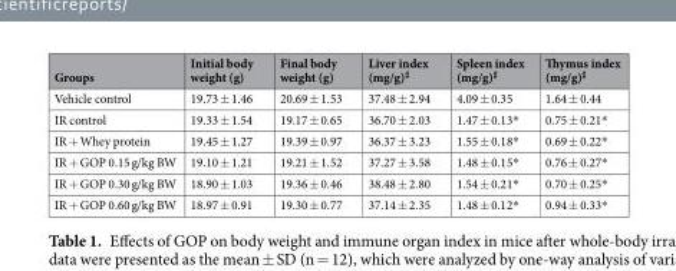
<table><thead><tr><td>Groups</td><td>Initial body weight (g)</td><td>Final body weight (g)</td><td>Liver index (mg/g)<sup>♯</sup></td><td>Spleen index (mg/g)<sup>♯</sup></td><td>Thymus index (mg/g)<sup>♯</sup></td></tr></thead><tbody><tr><td>Vehicle control</td><td>19.73 ± 1.46</td><td>20.69 ± 1.53</td><td>37.48 ± 2.94</td><td>4.09 ± 0.35</td><td>1.64 ± 0.44</td></tr><tr><td>IR control</td><td>19.33 ± 1.54</td><td>19.17 ± 0.65</td><td>36.70 ± 2.03</td><td>1.47 ± 0.13*</td><td>0.75 ± 0.21*</td></tr><tr><td>IR + Whey protein</td><td>19.45 ± 1.27</td><td>19.39 ± 0.97</td><td>36.37 ± 3.23</td><td>1.55 ± 0.18*</td><td>0.69 ± 0.22*</td></tr><tr><td>IR + GOP 0.15 g/kg BW</td><td>19.10 ± 1.21</td><td>19.21 ± 1.52</td><td>37.27 ± 3.58</td><td>1.48 ± 0.15*</td><td>0.76 ± 0.27*</td></tr><tr><td>IR + GOP 0.30 g/kg BW</td><td>18.90 ± 1.03</td><td>19.36 ± 0.46</td><td>38.48 ± 2.80</td><td>1.54 ± 0.21*</td><td>0.70 ± 0.25*</td></tr><tr><td>IR + GOP 0.60 g/kg BW</td><td>18.97 ± 0.91</td><td>19.30 ± 0.77</td><td>37.14 ± 2.35</td><td>1.48 ± 0.12*</td><td>0.94 ± 0.33*</td></tr></tbody></table>